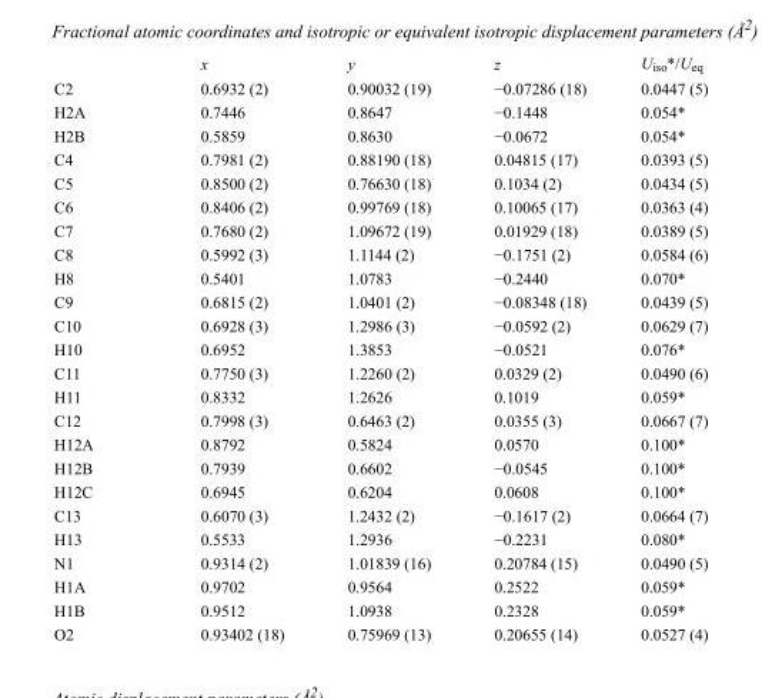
<table><thead><tr><td></td><td>x</td><td>y</td><td>z</td><td>U<sub>iso</sub>*/U<sub>eq</sub></td></tr></thead><tbody><tr><td>C2</td><td>0.6932 (2)</td><td>0.90032 (19)</td><td>−0.07286 (18)</td><td>0.0447 (5)</td></tr><tr><td>H2A</td><td>0.7446</td><td>0.8647</td><td>−0.1448</td><td>0.054*</td></tr><tr><td>H2B</td><td>0.5859</td><td>0.8630</td><td>−0.0672</td><td>0.054*</td></tr><tr><td>C4</td><td>0.7981 (2)</td><td>0.88190 (18)</td><td>0.04815 (17)</td><td>0.0393 (5)</td></tr><tr><td>C5</td><td>0.8500 (2)</td><td>0.76630 (18)</td><td>0.1034 (2)</td><td>0.0434 (5)</td></tr><tr><td>C6</td><td>0.8406 (2)</td><td>0.99769 (18)</td><td>0.10065 (17)</td><td>0.0363 (4)</td></tr><tr><td>C7</td><td>0.7680 (2)</td><td>1.09672 (19)</td><td>0.01929 (18)</td><td>0.0389 (5)</td></tr><tr><td>C8</td><td>0.5992 (3)</td><td>1.1144 (2)</td><td>−0.1751 (2)</td><td>0.0584 (6)</td></tr><tr><td>H8</td><td>0.5401</td><td>1.0783</td><td>−0.2440</td><td>0.070*</td></tr><tr><td>C9</td><td>0.6815 (2)</td><td>1.0401 (2)</td><td>−0.08348 (18)</td><td>0.0439 (5)</td></tr><tr><td>C10</td><td>0.6928 (3)</td><td>1.2986 (3)</td><td>−0.0592 (2)</td><td>0.0629 (7)</td></tr><tr><td>H10</td><td>0.6952</td><td>1.3853</td><td>−0.0521</td><td>0.076*</td></tr><tr><td>C11</td><td>0.7750 (3)</td><td>1.2260 (2)</td><td>0.0329 (2)</td><td>0.0490 (6)</td></tr><tr><td>H11</td><td>0.8332</td><td>1.2626</td><td>0.1019</td><td>0.059*</td></tr><tr><td>C12</td><td>0.7998 (3)</td><td>0.6463 (2)</td><td>0.0355 (3)</td><td>0.0667 (7)</td></tr><tr><td>H12A</td><td>0.8792</td><td>0.5824</td><td>0.0570</td><td>0.100*</td></tr><tr><td>H12B</td><td>0.7939</td><td>0.6602</td><td>−0.0545</td><td>0.100*</td></tr><tr><td>H12C</td><td>0.6945</td><td>0.6204</td><td>0.0608</td><td>0.100*</td></tr><tr><td>C13</td><td>0.6070 (3)</td><td>1.2432 (2)</td><td>−0.1617 (2)</td><td>0.0664 (7)</td></tr><tr><td>H13</td><td>0.5533</td><td>1.2936</td><td>−0.2231</td><td>0.080*</td></tr><tr><td>N1</td><td>0.9314 (2)</td><td>1.01839 (16)</td><td>0.20784 (15)</td><td>0.0490 (5)</td></tr><tr><td>H1A</td><td>0.9702</td><td>0.9564</td><td>0.2522</td><td>0.059*</td></tr><tr><td>H1B</td><td>0.9512</td><td>1.0938</td><td>0.2328</td><td>0.059*</td></tr><tr><td>O2</td><td>0.93402 (18)</td><td>0.75969 (13)</td><td>0.20655 (14)</td><td>0.0527 (4)</td></tr></tbody></table>